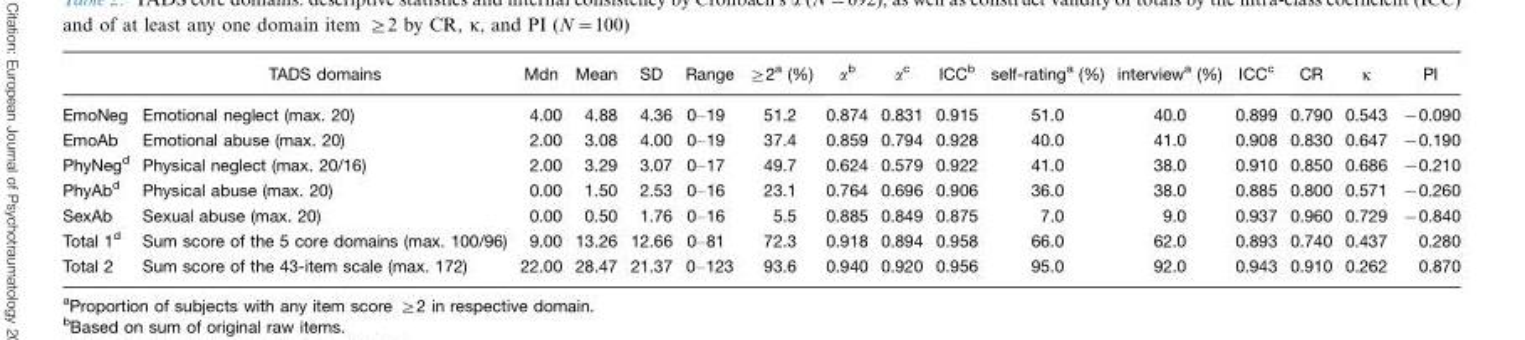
<table><thead><tr><td></td><td>TADS domains</td><td>Mdn</td><td>Mean</td><td>SD</td><td>Range</td><td>≥2<sup>a</sup> (%)</td><td>α<sup>b</sup></td><td>α<sup>c</sup></td><td>ICC<sup>b</sup></td><td>self-rating<sup>a</sup> (%)</td><td>interview<sup>a</sup> (%)</td><td>ICC<sup>c</sup></td><td>CR</td><td>κ</td><td>PI</td></tr></thead><tbody><tr><td>EmoNeg</td><td>Emotional neglect (max. 20)</td><td>4.00</td><td>4.88</td><td>4.36</td><td>0–19</td><td>51.2</td><td>0.874</td><td>0.831</td><td>0.915</td><td>51.0</td><td>40.0</td><td>0.899</td><td>0.790</td><td>0.543</td><td>−0.090</td></tr><tr><td>EmoAb</td><td>Emotional abuse (max. 20)</td><td>2.00</td><td>3.08</td><td>4.00</td><td>0–19</td><td>37.4</td><td>0.859</td><td>0.794</td><td>0.928</td><td>40.0</td><td>41.0</td><td>0.908</td><td>0.830</td><td>0.647</td><td>−0.190</td></tr><tr><td>PhyNeg<sup>d</sup></td><td>Physical neglect (max. 20/16)</td><td>2.00</td><td>3.29</td><td>3.07</td><td>0–17</td><td>49.7</td><td>0.624</td><td>0.579</td><td>0.922</td><td>41.0</td><td>38.0</td><td>0.910</td><td>0.850</td><td>0.686</td><td>−0.210</td></tr><tr><td>PhyAb<sup>d</sup></td><td>Physical abuse (max. 20)</td><td>0.00</td><td>1.50</td><td>2.53</td><td>0–16</td><td>23.1</td><td>0.764</td><td>0.696</td><td>0.906</td><td>36.0</td><td>38.0</td><td>0.885</td><td>0.800</td><td>0.571</td><td>−0.260</td></tr><tr><td>SexAb</td><td>Sexual abuse (max. 20)</td><td>0.00</td><td>0.50</td><td>1.76</td><td>0–16</td><td>5.5</td><td>0.885</td><td>0.849</td><td>0.875</td><td>7.0</td><td>9.0</td><td>0.937</td><td>0.960</td><td>0.729</td><td>−0.840</td></tr><tr><td>Total 1<sup>d</sup></td><td>Sum score of the 5 core domains (max. 100/96)</td><td>9.00</td><td>13.26</td><td>12.66</td><td>0–81</td><td>72.3</td><td>0.918</td><td>0.894</td><td>0.958</td><td>66.0</td><td>62.0</td><td>0.893</td><td>0.740</td><td>0.437</td><td>0.280</td></tr><tr><td>Total 2</td><td>Sum score of the 43-item scale (max. 172)</td><td>22.00</td><td>28.47</td><td>21.37</td><td>0–123</td><td>93.6</td><td>0.940</td><td>0.920</td><td>0.956</td><td>95.0</td><td>92.0</td><td>0.943</td><td>0.910</td><td>0.262</td><td>0.870</td></tr></tbody></table>